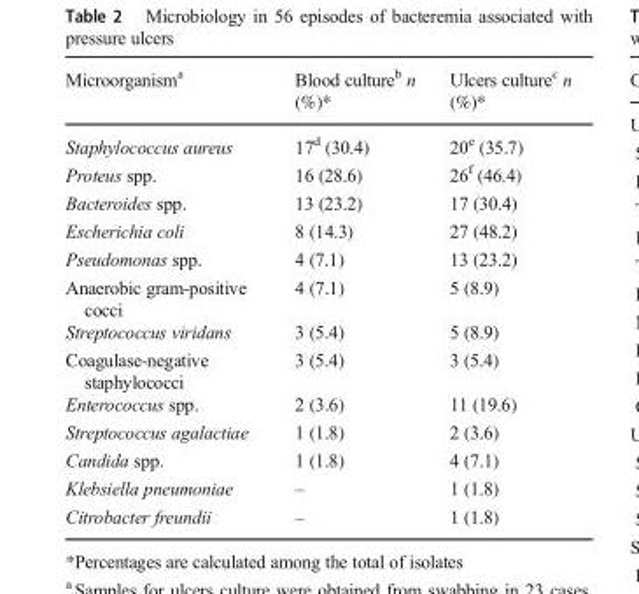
<table><thead><tr><td>Microorganism<sup>a</sup></td><td>Blood culture<sup>b</sup> n (%)*</td><td>Ulcers culture<sup>c</sup> n (%)*</td></tr></thead><tbody><tr><td>Staphylococcus aureus</td><td>17<sup>d</sup> (30.4)</td><td>20<sup>e</sup> (35.7)</td></tr><tr><td>Proteus spp.</td><td>16 (28.6)</td><td>26<sup>f</sup> (46.4)</td></tr><tr><td>Bacteroides spp.</td><td>13 (23.2)</td><td>17 (30.4)</td></tr><tr><td>Escherichia coli</td><td>8 (14.3)</td><td>27 (48.2)</td></tr><tr><td>Pseudomonas spp.</td><td>4 (7.1)</td><td>13 (23.2)</td></tr><tr><td>Anaerobic gram-positive cocci</td><td>4 (7.1)</td><td>5 (8.9)</td></tr><tr><td>Streptococcus viridans</td><td>3 (5.4)</td><td>5 (8.9)</td></tr><tr><td>Coagulase-negative staphylococci</td><td>3 (5.4)</td><td>3 (5.4)</td></tr><tr><td>Enterococcus spp.</td><td>2 (3.6)</td><td>11 (19.6)</td></tr><tr><td>Streptococcus agalactiae</td><td>1 (1.8)</td><td>2 (3.6)</td></tr><tr><td>Candida spp.</td><td>1 (1.8)</td><td>4 (7.1)</td></tr><tr><td>Klebsiella pneumoniae</td><td>–</td><td>1 (1.8)</td></tr><tr><td>Citrobacter freundii</td><td>–</td><td>1 (1.8)</td></tr></tbody></table>